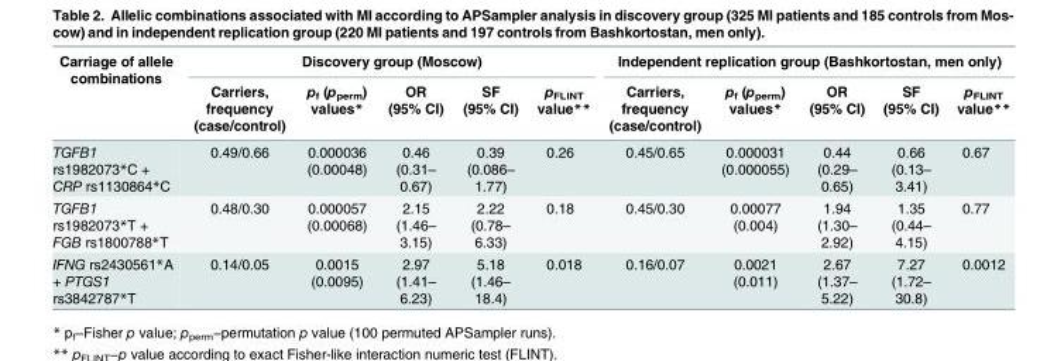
<table><thead><tr><td rowspan="2">Carriage of allele combinations</td><td colspan="5">Discovery group (Moscow)</td><td colspan="5">Independent replication group (Bashkortostan, men only)</td></tr><tr><td>Carriers, frequency (case/control)</td><td>p<sub>f</sub> (p<sub>perm</sub>) values*</td><td>OR (95% CI)</td><td>SF (95% CI)</td><td>p<sub>FLINT</sub> value**</td><td>Carriers, frequency (case/control)</td><td>p<sub>f</sub> (p<sub>perm</sub>) values*</td><td>OR (95% CI)</td><td>SF (95% CI)</td><td>p<sub>FLINT</sub> value**</td></tr></thead><tbody><tr><td>TGFB1 rs1982073*C + CRP rs1130864*C</td><td>0.49/0.66</td><td>0.000036 (0.00048)</td><td>0.46 (0.31– 0.67)</td><td>0.39 (0.086– 1.77)</td><td>0.26</td><td>0.45/0.65</td><td>0.000031 (0.000055)</td><td>0.44 (0.29– 0.65)</td><td>0.66 (0.13– 3.41)</td><td>0.67</td></tr><tr><td>TGFB1 rs1982073*T + FGB rs1800788*T</td><td>0.48/0.30</td><td>0.000057 (0.00068)</td><td>2.15 (1.46– 3.15)</td><td>2.22 (0.78– 6.33)</td><td>0.18</td><td>0.45/0.30</td><td>0.00077 (0.004)</td><td>1.94 (1.30– 2.92)</td><td>1.35 (0.44– 4.15)</td><td>0.77</td></tr><tr><td>IFNG rs2430561*A + PTGS1 rs3842787*T</td><td>0.14/0.05</td><td>0.0015 (0.0095)</td><td>2.97 (1.41– 6.23)</td><td>5.18 (1.46– 18.4)</td><td>0.018</td><td>0.16/0.07</td><td>0.0021 (0.011)</td><td>2.67 (1.37– 5.22)</td><td>7.27 (1.72– 30.8)</td><td>0.0012</td></tr></tbody></table>